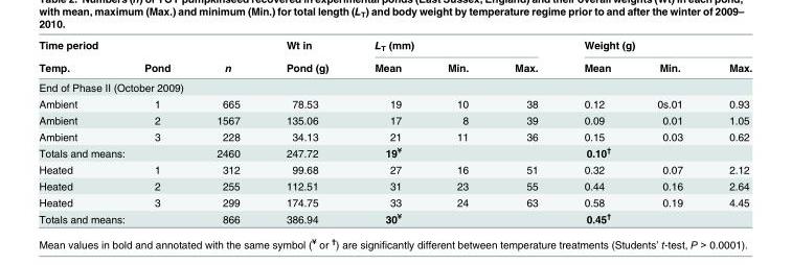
<table><thead><tr><td rowspan="2">Time period Temp.</td><td rowspan="2">Pond</td><td rowspan="2">n</td><td rowspan="2">Wt in Pond (g)</td><td colspan="3">L<sub>T</sub> (mm)</td><td colspan="3">Weight (g)</td></tr><tr><td>Mean</td><td>Min.</td><td>Max.</td><td>Mean</td><td>Min.</td><td>Max.</td></tr></thead><tbody><tr><td colspan="10">End of Phase II (October 2009)</td></tr><tr><td>Ambient</td><td>1</td><td>665</td><td>78.53</td><td>19</td><td>10</td><td>38</td><td>0.12</td><td>0s.01</td><td>0.93</td></tr><tr><td>Ambient</td><td>2</td><td>1567</td><td>135.06</td><td>17</td><td>8</td><td>39</td><td>0.09</td><td>0.01</td><td>1.05</td></tr><tr><td>Ambient</td><td>3</td><td>228</td><td>34.13</td><td>21</td><td>11</td><td>36</td><td>0.15</td><td>0.03</td><td>0.62</td></tr><tr><td colspan="2">Totals and means:</td><td>2460</td><td>247.72</td><td>19<sup>¥</sup></td><td></td><td></td><td>0.10<sup>†</sup></td><td></td><td></td></tr><tr><td>Heated</td><td>1</td><td>312</td><td>99.68</td><td>27</td><td>16</td><td>51</td><td>0.32</td><td>0.07</td><td>2.12</td></tr><tr><td>Heated</td><td>2</td><td>255</td><td>112.51</td><td>31</td><td>23</td><td>55</td><td>0.44</td><td>0.16</td><td>2.64</td></tr><tr><td>Heated</td><td>3</td><td>299</td><td>174.75</td><td>33</td><td>24</td><td>63</td><td>0.58</td><td>0.19</td><td>4.45</td></tr><tr><td colspan="2">Totals and means:</td><td>866</td><td>386.94</td><td>30<sup>¥</sup></td><td></td><td></td><td>0.45<sup>†</sup></td><td></td><td></td></tr></tbody></table>